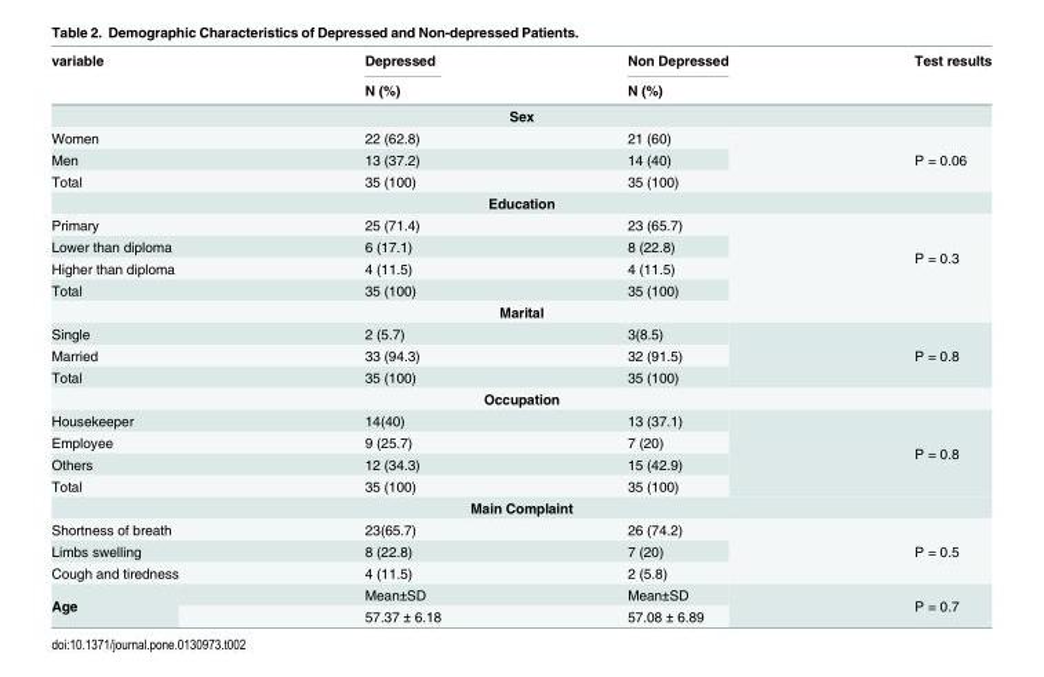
<table><thead><tr><td rowspan="2">variable</td><td rowspan="2">Depressed N (%)</td><td rowspan="2">Non Depressed N (%)</td><td rowspan="2">Test results</td></tr><tr></tr></thead><tbody><tr><td colspan="4">Sex</td></tr><tr><td>Women</td><td>22 (62.8)</td><td>21 (60)</td><td rowspan="3">P = 0.06</td></tr><tr><td>Men</td><td>13 (37.2)</td><td>14 (40)</td></tr><tr><td>Total</td><td>35 (100)</td><td>35 (100)</td></tr><tr><td colspan="4">Education</td></tr><tr><td>Primary</td><td>25 (71.4)</td><td>23 (65.7)</td><td rowspan="4">P = 0.3</td></tr><tr><td>Lower than diploma</td><td>6 (17.1)</td><td>8 (22.8)</td></tr><tr><td>Higher than diploma</td><td>4 (11.5)</td><td>4 (11.5)</td></tr><tr><td>Total</td><td>35 (100)</td><td>35 (100)</td></tr><tr><td colspan="4">Marital</td></tr><tr><td>Single</td><td>2 (5.7)</td><td>3(8.5)</td><td rowspan="3">P = 0.8</td></tr><tr><td>Married</td><td>33 (94.3)</td><td>32 (91.5)</td></tr><tr><td>Total</td><td>35 (100)</td><td>35 (100)</td></tr><tr><td colspan="4">Occupation</td></tr><tr><td>Housekeeper</td><td>14(40)</td><td>13 (37.1)</td><td rowspan="4">P = 0.8</td></tr><tr><td>Employee</td><td>9 (25.7)</td><td>7 (20)</td></tr><tr><td>Others</td><td>12 (34.3)</td><td>15 (42.9)</td></tr><tr><td>Total</td><td>35 (100)</td><td>35 (100)</td></tr><tr><td colspan="4">Main Complaint</td></tr><tr><td>Shortness of breath</td><td>23(65.7)</td><td>26 (74.2)</td><td rowspan="3">P = 0.5</td></tr><tr><td>Limbs swelling</td><td>8 (22.8)</td><td>7 (20)</td></tr><tr><td>Cough and tiredness</td><td>4 (11.5)</td><td>2 (5.8)</td></tr><tr><td rowspan="2">Age</td><td>Mean±SD</td><td>Mean±SD</td><td rowspan="2">P = 0.7</td></tr><tr><td>57.37 ± 6.18</td><td>57.08 ± 6.89</td></tr></tbody></table>